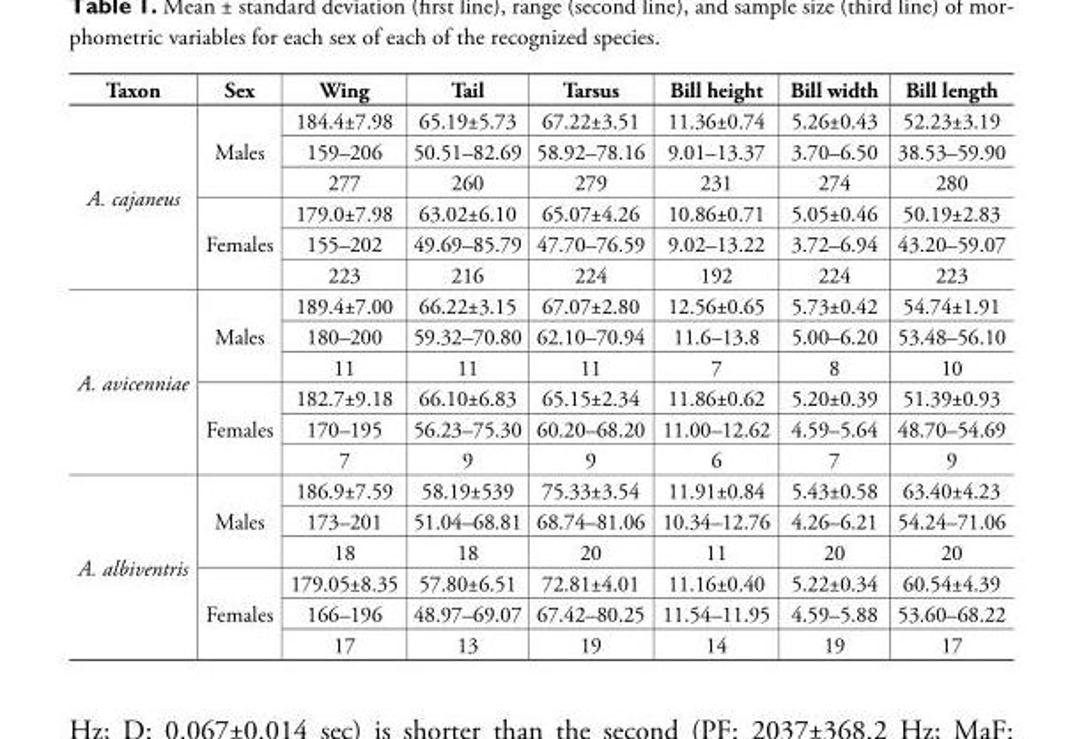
<table><thead><tr><td>Taxon</td><td>Sex</td><td>Wing</td><td>Tail</td><td>Tarsus</td><td>Bill height</td><td>Bill width</td><td>Bill length</td></tr></thead><tbody><tr><td rowspan="6">A. cajaneus</td><td rowspan="3">Males</td><td>184.4±7.98</td><td>65.19±5.73</td><td>67.22±3.51</td><td>11.36±0.74</td><td>5.26±0.43</td><td>52.23±3.19</td></tr><tr><td>159–206</td><td>50.51–82.69</td><td>58.92–78.16</td><td>9.01–13.37</td><td>3.70–6.50</td><td>38.53–59.90</td></tr><tr><td>277</td><td>260</td><td>279</td><td>231</td><td>274</td><td>280</td></tr><tr><td rowspan="3">Females</td><td>179.0±7.98</td><td>63.02±6.10</td><td>65.07±4.26</td><td>10.86±0.71</td><td>5.05±0.46</td><td>50.19±2.83</td></tr><tr><td>155–202</td><td>49.69–85.79</td><td>47.70–76.59</td><td>9.02–13.22</td><td>3.72–6.94</td><td>43.20–59.07</td></tr><tr><td>223</td><td>216</td><td>224</td><td>192</td><td>224</td><td>223</td></tr><tr><td rowspan="6">A. avicenniae</td><td rowspan="3">Males</td><td>189.4±7.00</td><td>66.22±3.15</td><td>67.07±2.80</td><td>12.56±0.65</td><td>5.73±0.42</td><td>54.74±1.91</td></tr><tr><td>180–200</td><td>59.32–70.80</td><td>62.10–70.94</td><td>11.6–13.8</td><td>5.00–6.20</td><td>53.48–56.10</td></tr><tr><td>11</td><td>11</td><td>11</td><td>7</td><td>8</td><td>10</td></tr><tr><td rowspan="3">Females</td><td>182.7±9.18</td><td>66.10±6.83</td><td>65.15±2.34</td><td>11.86±0.62</td><td>5.20±0.39</td><td>51.39±0.93</td></tr><tr><td>170–195</td><td>56.23–75.30</td><td>60.20–68.20</td><td>11.00–12.62</td><td>4.59–5.64</td><td>48.70–54.69</td></tr><tr><td>7</td><td>9</td><td>9</td><td>6</td><td>7</td><td>9</td></tr><tr><td rowspan="6">A. albiventris</td><td rowspan="3">Males</td><td>186.9±7.59</td><td>58.19±539</td><td>75.33±3.54</td><td>11.91±0.84</td><td>5.43±0.58</td><td>63.40±4.23</td></tr><tr><td>173–201</td><td>51.04–68.81</td><td>68.74–81.06</td><td>10.34–12.76</td><td>4.26–6.21</td><td>54.24–71.06</td></tr><tr><td>18</td><td>18</td><td>20</td><td>11</td><td>20</td><td>20</td></tr><tr><td rowspan="3">Females</td><td>179.05±8.35</td><td>57.80±6.51</td><td>72.81±4.01</td><td>11.16±0.40</td><td>5.22±0.34</td><td>60.54±4.39</td></tr><tr><td>166–196</td><td>48.97–69.07</td><td>67.42–80.25</td><td>11.54–11.95</td><td>4.59–5.88</td><td>53.60–68.22</td></tr><tr><td>17</td><td>13</td><td>19</td><td>14</td><td>19</td><td>17</td></tr></tbody></table>